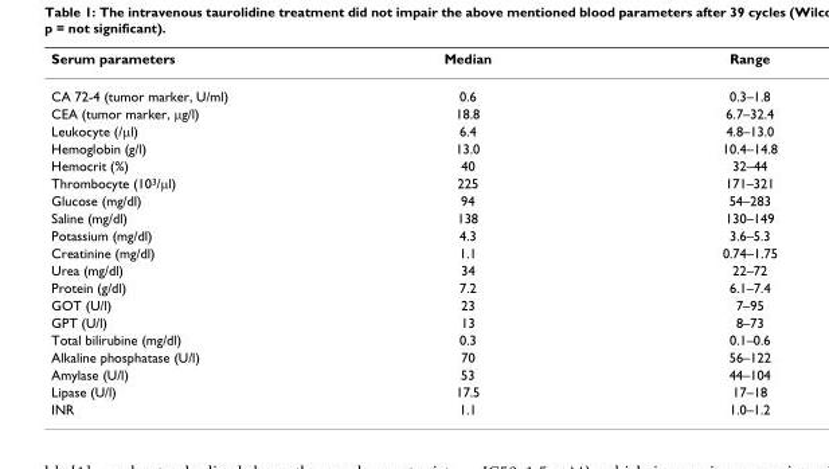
<table><thead><tr><td>Serum parameters</td><td>Median</td><td>Range</td></tr></thead><tbody><tr><td>CA 72-4 (tumor marker, U/ml)</td><td>0.6</td><td>0.3–1.8</td></tr><tr><td>CEA (tumor marker, µg/l)</td><td>18.8</td><td>6.7–32.4</td></tr><tr><td>Leukocyte (/µl)</td><td>6.4</td><td>4.8–13.0</td></tr><tr><td>Hemoglobin (g/l)</td><td>13.0</td><td>10.4–14.8</td></tr><tr><td>Hemocrit (%)</td><td>40</td><td>32–44</td></tr><tr><td>Thrombocyte (10<sup>3</sup>/µl)</td><td>225</td><td>171–321</td></tr><tr><td>Glucose (mg/dl)</td><td>94</td><td>54–283</td></tr><tr><td>Saline (mg/dl)</td><td>138</td><td>130–149</td></tr><tr><td>Potassium (mg/dl)</td><td>4.3</td><td>3.6–5.3</td></tr><tr><td>Creatinine (mg/dl)</td><td>1.1</td><td>0.74–1.75</td></tr><tr><td>Urea (mg/dl)</td><td>34</td><td>22–72</td></tr><tr><td>Protein (g/dl)</td><td>7.2</td><td>6.1–7.4</td></tr><tr><td>GOT (U/l)</td><td>23</td><td>7–95</td></tr><tr><td>GPT (U/l)</td><td>13</td><td>8–73</td></tr><tr><td>Total bilirubine (mg/dl)</td><td>0.3</td><td>0.1–0.6</td></tr><tr><td>Alkaline phosphatase (U/l)</td><td>70</td><td>56–122</td></tr><tr><td>Amylase (U/l)</td><td>53</td><td>44–104</td></tr><tr><td>Lipase (U/l)</td><td>17.5</td><td>17–18</td></tr><tr><td>INR</td><td>1.1</td><td>1.0–1.2</td></tr></tbody></table>